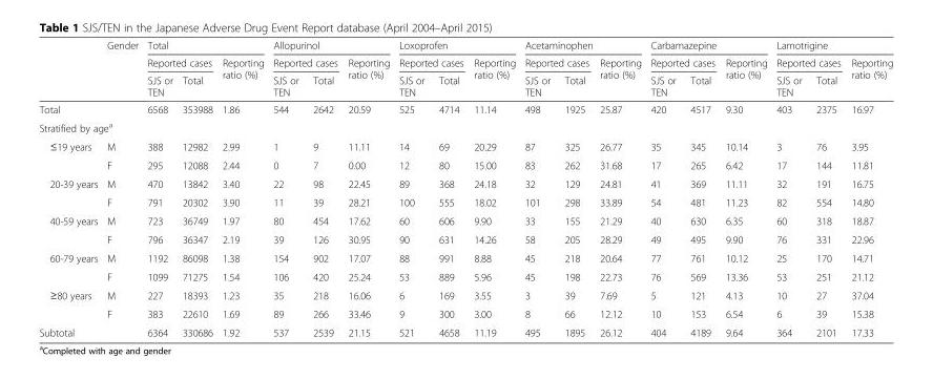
<table><thead><tr><td rowspan="3"></td><td rowspan="3">Gender</td><td colspan="3">Total</td><td colspan="3">Allopurinol</td><td colspan="3">Loxoprofen</td><td colspan="3">Acetaminophen</td><td colspan="3">Carbamazepine</td><td colspan="3">Lamotrigine</td></tr><tr><td colspan="2">Reported cases</td><td rowspan="2">Reporting ratio (%)</td><td colspan="2">Reported cases</td><td rowspan="2">Reporting ratio (%)</td><td colspan="2">Reported cases</td><td rowspan="2">Reporting ratio (%)</td><td colspan="2">Reported cases</td><td rowspan="2">Reporting ratio (%)</td><td colspan="2">Reported cases</td><td rowspan="2">Reporting ratio (%)</td><td colspan="2">Reported cases</td><td rowspan="2">Reporting ratio (%)</td></tr><tr><td>SJS or TEN</td><td>Total</td><td>SJS or TEN</td><td>Total</td><td>SJS or TEN</td><td>Total</td><td>SJS or TEN</td><td>Total</td><td>SJS or TEN</td><td>Total</td><td>SJS or TEN</td><td>Total</td></tr></thead><tbody><tr><td>Total</td><td></td><td>6568</td><td>353988</td><td>1.86</td><td>544</td><td>2642</td><td>20.59</td><td>525</td><td>4714</td><td>11.14</td><td>498</td><td>1925</td><td>25.87</td><td>420</td><td>4517</td><td>9.30</td><td>403</td><td>2375</td><td>16.97</td></tr><tr><td colspan="20">Stratified by age<sup>a</sup></td></tr><tr><td rowspan="2">≤19 years</td><td>M</td><td>388</td><td>12982</td><td>2.99</td><td>1</td><td>9</td><td>11.11</td><td>14</td><td>69</td><td>20.29</td><td>87</td><td>325</td><td>26.77</td><td>35</td><td>345</td><td>10.14</td><td>3</td><td>76</td><td>3.95</td></tr><tr><td>F</td><td>295</td><td>12088</td><td>2.44</td><td>0</td><td>7</td><td>0.00</td><td>12</td><td>80</td><td>15.00</td><td>83</td><td>262</td><td>31.68</td><td>17</td><td>265</td><td>6.42</td><td>17</td><td>144</td><td>11.81</td></tr><tr><td rowspan="2">20-39 years</td><td>M</td><td>470</td><td>13842</td><td>3.40</td><td>22</td><td>98</td><td>22.45</td><td>89</td><td>368</td><td>24.18</td><td>32</td><td>129</td><td>24.81</td><td>41</td><td>369</td><td>11.11</td><td>32</td><td>191</td><td>16.75</td></tr><tr><td>F</td><td>791</td><td>20302</td><td>3.90</td><td>11</td><td>39</td><td>28.21</td><td>100</td><td>555</td><td>18.02</td><td>101</td><td>298</td><td>33.89</td><td>54</td><td>481</td><td>11.23</td><td>82</td><td>554</td><td>14.80</td></tr><tr><td rowspan="2">40-59 years</td><td>M</td><td>723</td><td>36749</td><td>1.97</td><td>80</td><td>454</td><td>17.62</td><td>60</td><td>606</td><td>9.90</td><td>33</td><td>155</td><td>21.29</td><td>40</td><td>630</td><td>6.35</td><td>60</td><td>318</td><td>18.87</td></tr><tr><td>F</td><td>796</td><td>36347</td><td>2.19</td><td>39</td><td>126</td><td>30.95</td><td>90</td><td>631</td><td>14.26</td><td>58</td><td>205</td><td>28.29</td><td>49</td><td>495</td><td>9.90</td><td>76</td><td>331</td><td>22.96</td></tr><tr><td rowspan="2">60-79 years</td><td>M</td><td>1192</td><td>86098</td><td>1.38</td><td>154</td><td>902</td><td>17.07</td><td>88</td><td>991</td><td>8.88</td><td>45</td><td>218</td><td>20.64</td><td>77</td><td>761</td><td>10.12</td><td>25</td><td>170</td><td>14.71</td></tr><tr><td>F</td><td>1099</td><td>71275</td><td>1.54</td><td>106</td><td>420</td><td>25.24</td><td>53</td><td>889</td><td>5.96</td><td>45</td><td>198</td><td>22.73</td><td>76</td><td>569</td><td>13.36</td><td>53</td><td>251</td><td>21.12</td></tr><tr><td rowspan="2">≥80 years</td><td>M</td><td>227</td><td>18393</td><td>1.23</td><td>35</td><td>218</td><td>16.06</td><td>6</td><td>169</td><td>3.55</td><td>3</td><td>39</td><td>7.69</td><td>5</td><td>121</td><td>4.13</td><td>10</td><td>27</td><td>37.04</td></tr><tr><td>F</td><td>383</td><td>22610</td><td>1.69</td><td>89</td><td>266</td><td>33.46</td><td>9</td><td>300</td><td>3.00</td><td>8</td><td>66</td><td>12.12</td><td>10</td><td>153</td><td>6.54</td><td>6</td><td>39</td><td>15.38</td></tr><tr><td>Subtotal</td><td></td><td>6364</td><td>330686</td><td>1.92</td><td>537</td><td>2539</td><td>21.15</td><td>521</td><td>4658</td><td>11.19</td><td>495</td><td>1895</td><td>26.12</td><td>404</td><td>4189</td><td>9.64</td><td>364</td><td>2101</td><td>17.33</td></tr></tbody></table>